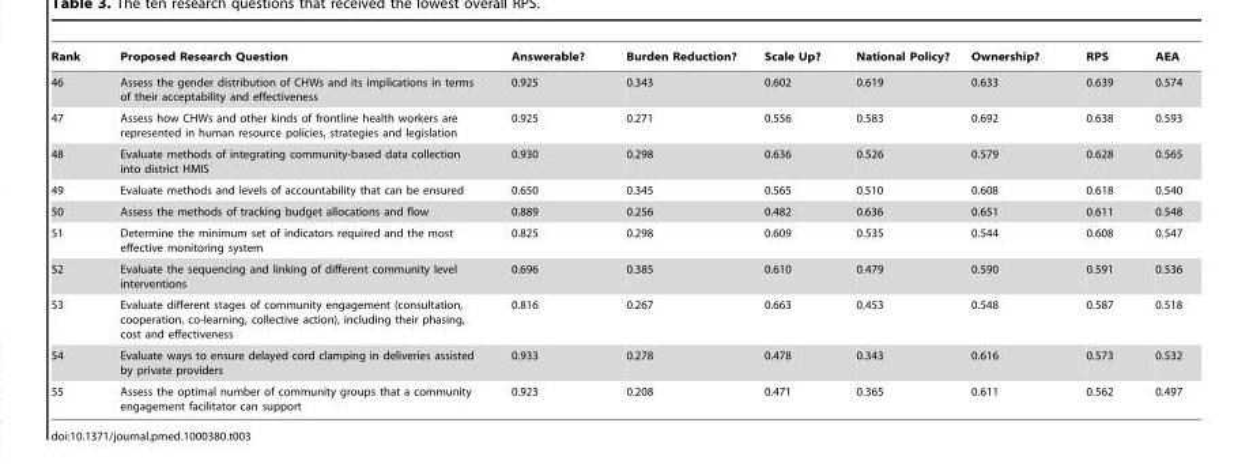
<table><thead><tr><td>Rank</td><td>Proposed Research Question</td><td>Answerable?</td><td>Burden Reduction?</td><td>Scale Up?</td><td>National Policy?</td><td>Ownership?</td><td>RPS</td><td>AEA</td></tr></thead><tbody><tr><td>46</td><td>Assess the gender distribution of CHWs and its implications in terms of their acceptability and effectiveness</td><td>0.925</td><td>0.343</td><td>0.602</td><td>0.619</td><td>0.633</td><td>0.639</td><td>0.574</td></tr><tr><td>47</td><td>Assess how CHWs and other kinds of frontline health workers are represented in human resource policies, strategies and legislation</td><td>0.925</td><td>0.271</td><td>0.556</td><td>0.583</td><td>0.692</td><td>0.638</td><td>0.593</td></tr><tr><td>48</td><td>Evaluate methods of integrating community-based data collection into district HMIS</td><td>0.930</td><td>0.298</td><td>0.636</td><td>0.526</td><td>0.579</td><td>0.628</td><td>0.565</td></tr><tr><td>49</td><td>Evaluate methods and levels of accountability that can be ensured</td><td>0.650</td><td>0.345</td><td>0.565</td><td>0.510</td><td>0.608</td><td>0.618</td><td>0.540</td></tr><tr><td>50</td><td>Assess the methods of tracking budget allocations and flow</td><td>0.889</td><td>0.256</td><td>0.482</td><td>0.636</td><td>0.651</td><td>0.611</td><td>0.548</td></tr><tr><td>51</td><td>Determine the minimum set of indicators required and the most effective monitoring system</td><td>0.825</td><td>0.298</td><td>0.609</td><td>0.535</td><td>0.544</td><td>0.608</td><td>0.547</td></tr><tr><td>52</td><td>Evaluate the sequencing and linking of different community level interventions</td><td>0.696</td><td>0.385</td><td>0.610</td><td>0.479</td><td>0.590</td><td>0.591</td><td>0.536</td></tr><tr><td>53</td><td>Evaluate different stages of community engagement (consultation, cooperation, co-learning, collective action), including their phasing, cost and effectiveness</td><td>0.816</td><td>0.267</td><td>0.663</td><td>0.453</td><td>0.548</td><td>0.587</td><td>0.518</td></tr><tr><td>54</td><td>Evaluate ways to ensure delayed cord clamping in deliveries assisted by private providers</td><td>0.933</td><td>0.278</td><td>0.478</td><td>0.343</td><td>0.616</td><td>0.573</td><td>0.532</td></tr><tr><td>55</td><td>Assess the optimal number of community groups that a community engagement facilitator can support</td><td>0.923</td><td>0.208</td><td>0.471</td><td>0.365</td><td>0.611</td><td>0.562</td><td>0.497</td></tr></tbody></table>